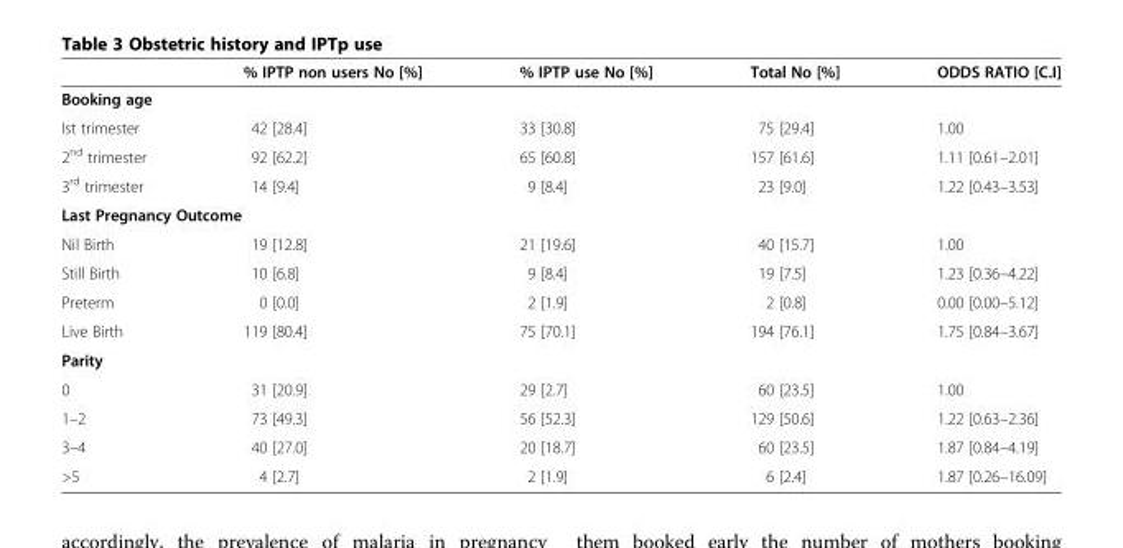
<table><thead><tr><td></td><td>% IPTP non users No [%]</td><td>% IPTP use No [%]</td><td>Total No [%]</td><td>ODDS RATIO [C.I]</td></tr></thead><tbody><tr><td colspan="5">Booking age</td></tr><tr><td>Ist trimester</td><td>42 [28.4]</td><td>33 [30.8]</td><td>75 [29.4]</td><td>1.00</td></tr><tr><td>2<sup>nd</sup> trimester</td><td>92 [62.2]</td><td>65 [60.8]</td><td>157 [61.6]</td><td>1.11 [0.61–2.01]</td></tr><tr><td>3<sup>rd</sup> trimester</td><td>14 [9.4]</td><td>9 [8.4]</td><td>23 [9.0]</td><td>1.22 [0.43–3.53]</td></tr><tr><td colspan="5">Last Pregnancy Outcome</td></tr><tr><td>Nil Birth</td><td>19 [12.8]</td><td>21 [19.6]</td><td>40 [15.7]</td><td>1.00</td></tr><tr><td>Still Birth</td><td>10 [6.8]</td><td>9 [8.4]</td><td>19 [7.5]</td><td>1.23 [0.36–4.22]</td></tr><tr><td>Preterm</td><td>0 [0.0]</td><td>2 [1.9]</td><td>2 [0.8]</td><td>0.00 [0.00–5.12]</td></tr><tr><td>Live Birth</td><td>119 [80.4]</td><td>75 [70.1]</td><td>194 [76.1]</td><td>1.75 [0.84–3.67]</td></tr><tr><td colspan="5">Parity</td></tr><tr><td>0</td><td>31 [20.9]</td><td>29 [2.7]</td><td>60 [23.5]</td><td>1.00</td></tr><tr><td>1–2</td><td>73 [49.3]</td><td>56 [52.3]</td><td>129 [50.6]</td><td>1.22 [0.63–2.36]</td></tr><tr><td>3–4</td><td>40 [27.0]</td><td>20 [18.7]</td><td>60 [23.5]</td><td>1.87 [0.84–4.19]</td></tr><tr><td>&gt;5</td><td>4 [2.7]</td><td>2 [1.9]</td><td>6 [2.4]</td><td>1.87 [0.26–16.09]</td></tr></tbody></table>